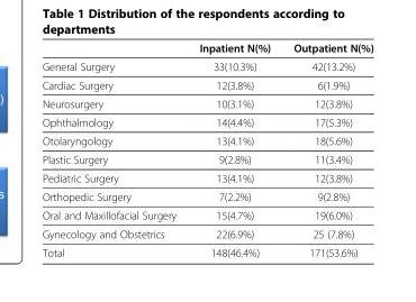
<table><thead><tr><td></td><td>Inpatient N(%)</td><td>Outpatient N(%)</td></tr></thead><tbody><tr><td>General Surgery</td><td>33(10.3%)</td><td>42(13.2%)</td></tr><tr><td>Cardiac Surgery</td><td>12(3.8%)</td><td>6(1.9%)</td></tr><tr><td>Neurosurgery</td><td>10(3.1%)</td><td>12(3.8%)</td></tr><tr><td>Ophthalmology</td><td>14(4.4%)</td><td>17(5.3%)</td></tr><tr><td>Otolaryngology</td><td>13(4.1%)</td><td>18(5.6%)</td></tr><tr><td>Plastic Surgery</td><td>9(2.8%)</td><td>11(3.4%)</td></tr><tr><td>Pediatric Surgery</td><td>13(4.1%)</td><td>12(3.8%)</td></tr><tr><td>Orthopedic Surgery</td><td>7(2.2%)</td><td>9(2.8%)</td></tr><tr><td>Oral and Maxillofacial Surgery</td><td>15(4.7%)</td><td>19(6.0%)</td></tr><tr><td>Gynecology and Obstetrics</td><td>22(6.9%)</td><td>25 (7.8%)</td></tr><tr><td>Total</td><td>148(46.4%)</td><td>171(53.6%)</td></tr></tbody></table>